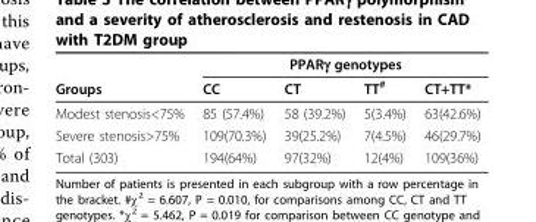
<table><thead><tr><td rowspan="2">Groups</td><td colspan="4">PPARγ genotypes</td></tr><tr><td>CC</td><td>CT</td><td>TT<sup>#</sup></td><td>CT+TT*</td></tr></thead><tbody><tr><td>Modest stenosis&lt;75%</td><td>85 (57.4%)</td><td>58 (39.2%)</td><td>5(3.4%)</td><td>63(42.6%)</td></tr><tr><td>Severe stenosis&gt;75%</td><td>109(70.3%)</td><td>39(25.2%)</td><td>7(4.5%)</td><td>46(29.7%)</td></tr><tr><td>Total (303)</td><td>194(64%)</td><td>97(32%)</td><td>12(4%)</td><td>109(36%)</td></tr></tbody></table>